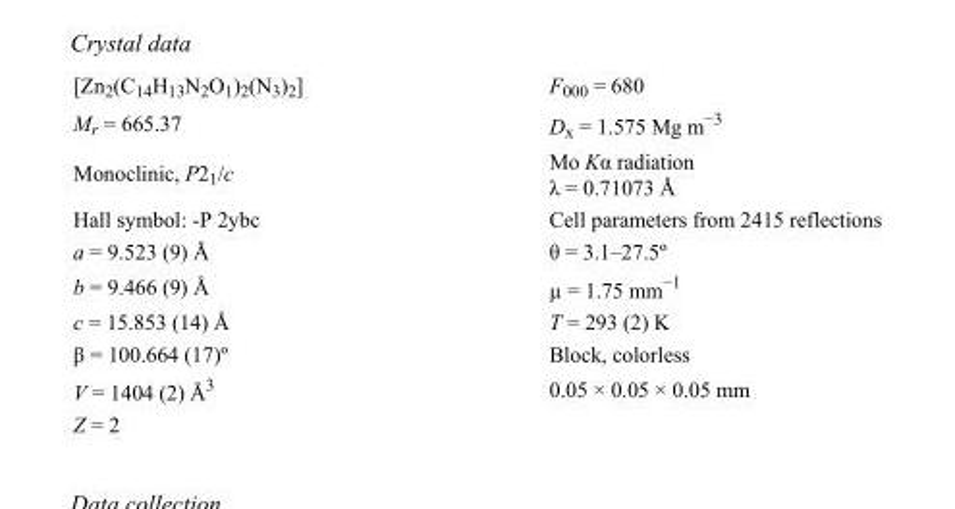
<table><tbody><tr><td>[Zn<sub>2</sub>(C<sub>14</sub>H<sub>13</sub>N<sub>2</sub>O<sub>1</sub>)<sub>2</sub>(N<sub>3</sub>)<sub>2</sub>]</td><td>F<sub>000</sub> = 680</td></tr><tr><td>M<sub>r</sub> = 665.37</td><td>D<sub>x</sub> = 1.575 Mg m<sup>−3</sup></td></tr><tr><td>Monoclinic, P2<sub>1</sub>/c</td><td>Mo Kα radiation λ = 0.71073 Å</td></tr><tr><td>Hall symbol: -P 2ybc</td><td>Cell parameters from 2415 reflections</td></tr><tr><td>a = 9.523 (9) Å</td><td>θ = 3.1–27.5º</td></tr><tr><td>b = 9.466 (9) Å</td><td>µ = 1.75 mm<sup>−1</sup></td></tr><tr><td>c = 15.853 (14) Å</td><td>T = 293 (2) K</td></tr><tr><td>β = 100.664 (17)º</td><td>Block, colorless</td></tr><tr><td>V = 1404 (2) Å<sup>3</sup></td><td>0.05 × 0.05 × 0.05 mm</td></tr><tr><td>Z = 2</td><td></td></tr></tbody></table>